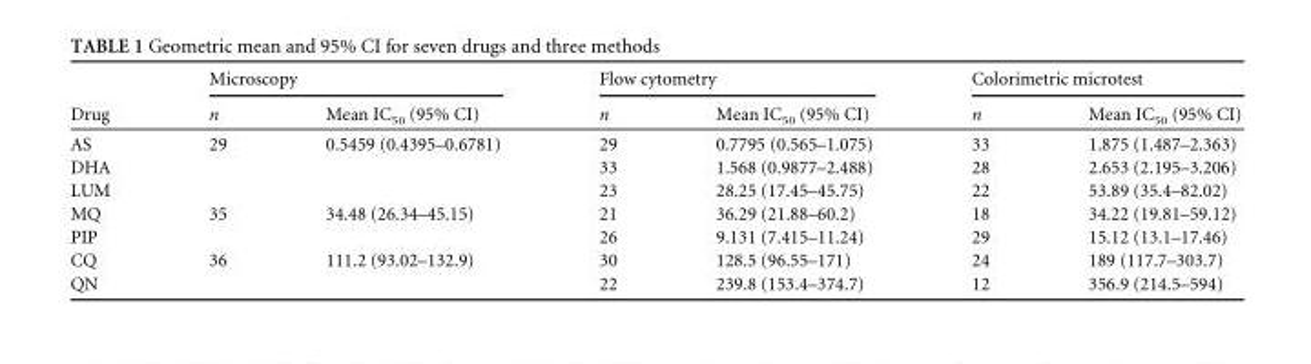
<table><thead><tr><td rowspan="2">Drug</td><td colspan="2">Microscopy</td><td colspan="2">Flow cytometry</td><td colspan="2">Colorimetric microtest</td></tr><tr><td>n</td><td>Mean IC<sub>50</sub> (95% CI)</td><td>n</td><td>Mean IC<sub>50</sub> (95% CI)</td><td>n</td><td>Mean IC<sub>50</sub> (95% CI)</td></tr></thead><tbody><tr><td>AS</td><td>29</td><td>0.5459 (0.4395–0.6781)</td><td>29</td><td>0.7795 (0.565–1.075)</td><td>33</td><td>1.875 (1.487–2.363)</td></tr><tr><td>DHA</td><td></td><td></td><td>33</td><td>1.568 (0.9877–2.488)</td><td>28</td><td>2.653 (2.195–3.206)</td></tr><tr><td>LUM</td><td></td><td></td><td>23</td><td>28.25 (17.45–45.75)</td><td>22</td><td>53.89 (35.4–82.02)</td></tr><tr><td>MQ</td><td>35</td><td>34.48 (26.34–45.15)</td><td>21</td><td>36.29 (21.88–60.2)</td><td>18</td><td>34.22 (19.81–59.12)</td></tr><tr><td>PIP</td><td></td><td></td><td>26</td><td>9.131 (7.415–11.24)</td><td>29</td><td>15.12 (13.1–17.46)</td></tr><tr><td>CQ</td><td>36</td><td>111.2 (93.02–132.9)</td><td>30</td><td>128.5 (96.55–171)</td><td>24</td><td>189 (117.7–303.7)</td></tr><tr><td>QN</td><td></td><td></td><td>22</td><td>239.8 (153.4–374.7)</td><td>12</td><td>356.9 (214.5–594)</td></tr></tbody></table>